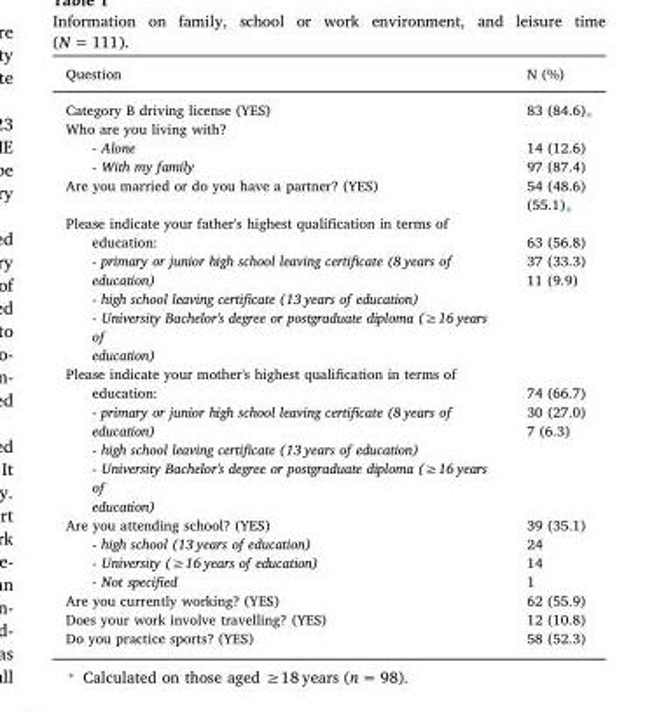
<table><thead><tr><td>Question</td><td>N (%)</td></tr></thead><tbody><tr><td>Category B driving license (YES)</td><td>83 (84.6)⁎</td></tr><tr><td>Who are you living with? - Alone - With my family</td><td>14 (12.6) 97 (87.4)</td></tr><tr><td>Are you married or do you have a partner? (YES)</td><td>54 (48.6) (55.1)⁎</td></tr><tr><td>Please indicate your father&#x27;s highest qualification in terms of education: - primary or junior high school leaving certificate (8 years of education) - high school leaving certificate (13 years of education) - University Bachelor&#x27;s degree or postgraduate diploma (≥16 years of education)</td><td>63 (56.8) 37 (33.3) 11 (9.9)</td></tr><tr><td>Please indicate your mother&#x27;s highest qualification in terms of education: - primary or junior high school leaving certificate (8 years of education) - high school leaving certificate (13 years of education) - University Bachelor&#x27;s degree or postgraduate diploma (≥16 years of education)</td><td>74 (66.7) 30 (27.0) 7 (6.3)</td></tr><tr><td>Are you attending school? (YES) - high school (13 years of education) - University (≥16 years of education) - Not specified</td><td>39 (35.1) 24 14 1</td></tr><tr><td>Are you currently working? (YES)</td><td>62 (55.9)</td></tr><tr><td>Does your work involve travelling? (YES)</td><td>12 (10.8)</td></tr><tr><td>Do you practice sports? (YES)</td><td>58 (52.3)</td></tr></tbody></table>